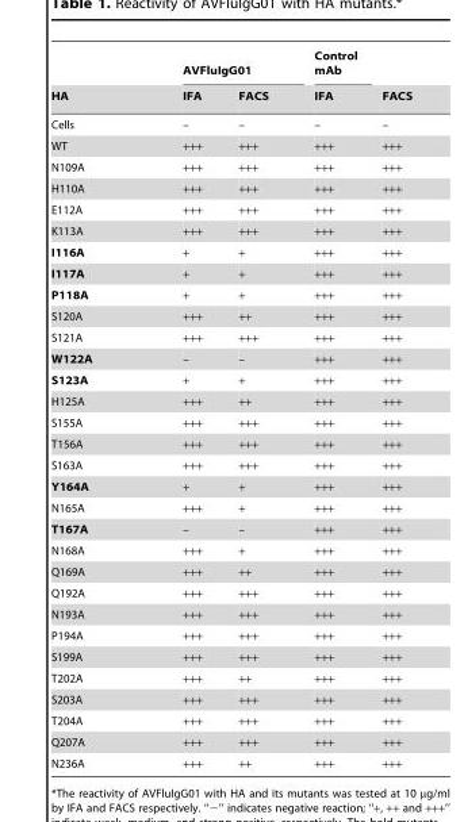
<table><thead><tr><td rowspan="2">HA</td><td colspan="2">AVFluIgG01</td><td rowspan="2">Control mAb IFA</td><td rowspan="2">FACS</td></tr><tr><td>IFA</td><td>FACS</td></tr></thead><tbody><tr><td>Cells</td><td>–</td><td>–</td><td>–</td><td>–</td></tr><tr><td>WT</td><td>+++</td><td>+++</td><td>+++</td><td>+++</td></tr><tr><td>N109A</td><td>+++</td><td>+++</td><td>+++</td><td>+++</td></tr><tr><td>H110A</td><td>+++</td><td>+++</td><td>+++</td><td>+++</td></tr><tr><td>E112A</td><td>+++</td><td>+++</td><td>+++</td><td>+++</td></tr><tr><td>K113A</td><td>+++</td><td>+++</td><td>+++</td><td>+++</td></tr><tr><td>I116A</td><td>+</td><td>+</td><td>+++</td><td>+++</td></tr><tr><td>I117A</td><td>+</td><td>+</td><td>+++</td><td>+++</td></tr><tr><td>P118A</td><td>+</td><td>+</td><td>+++</td><td>+++</td></tr><tr><td>S120A</td><td>+++</td><td>++</td><td>+++</td><td>+++</td></tr><tr><td>S121A</td><td>+++</td><td>+++</td><td>+++</td><td>+++</td></tr><tr><td>W122A</td><td>–</td><td>–</td><td>+++</td><td>+++</td></tr><tr><td>S123A</td><td>+</td><td>+</td><td>+++</td><td>+++</td></tr><tr><td>H125A</td><td>+++</td><td>++</td><td>+++</td><td>+++</td></tr><tr><td>S155A</td><td>+++</td><td>+++</td><td>+++</td><td>+++</td></tr><tr><td>T156A</td><td>+++</td><td>+++</td><td>+++</td><td>+++</td></tr><tr><td>S163A</td><td>+++</td><td>+++</td><td>+++</td><td>+++</td></tr><tr><td>Y164A</td><td>+</td><td>+</td><td>+++</td><td>+++</td></tr><tr><td>N165A</td><td>+++</td><td>+</td><td>+++</td><td>+++</td></tr><tr><td>T167A</td><td>–</td><td>–</td><td>+++</td><td>+++</td></tr><tr><td>N168A</td><td>+++</td><td>+</td><td>+++</td><td>+++</td></tr><tr><td>Q169A</td><td>+++</td><td>++</td><td>+++</td><td>+++</td></tr><tr><td>Q192A</td><td>+++</td><td>+++</td><td>+++</td><td>+++</td></tr><tr><td>N193A</td><td>+++</td><td>+++</td><td>+++</td><td>+++</td></tr><tr><td>P194A</td><td>+++</td><td>+++</td><td>+++</td><td>+++</td></tr><tr><td>S199A</td><td>+++</td><td>+++</td><td>+++</td><td>+++</td></tr><tr><td>T202A</td><td>+++</td><td>++</td><td>+++</td><td>+++</td></tr><tr><td>S203A</td><td>+++</td><td>+++</td><td>+++</td><td>+++</td></tr><tr><td>T204A</td><td>+++</td><td>+++</td><td>+++</td><td>+++</td></tr><tr><td>Q207A</td><td>+++</td><td>+++</td><td>+++</td><td>+++</td></tr><tr><td>N236A</td><td>+++</td><td>++</td><td>+++</td><td>+++</td></tr></tbody></table>